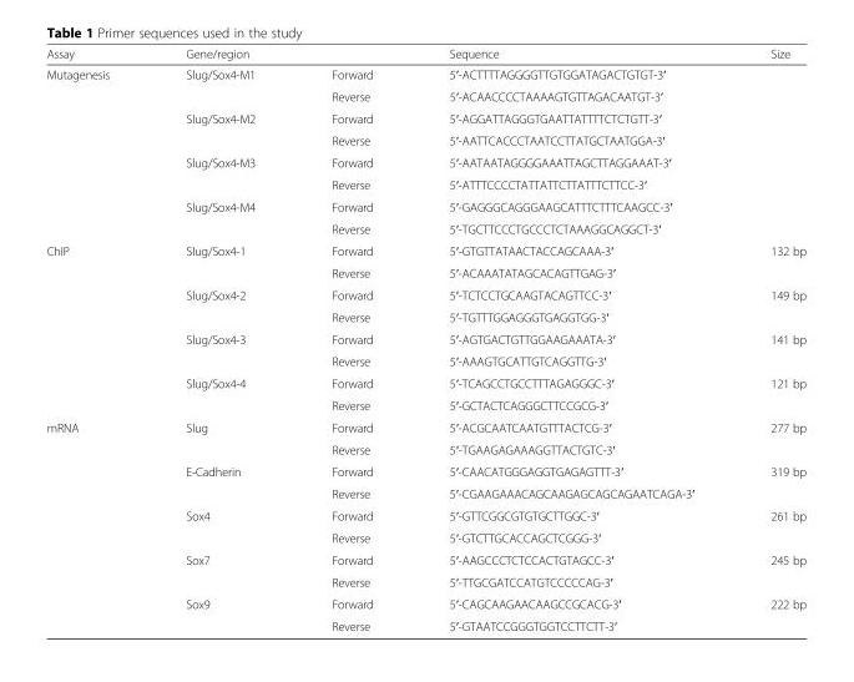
<table><thead><tr><td>Assay</td><td>Gene/region</td><td></td><td>Sequence</td><td>Size</td></tr></thead><tbody><tr><td rowspan="8">Mutagenesis</td><td>Slug/Sox4-M1</td><td>Forward</td><td>5′-ACTTTTAGGGGTTGTGGATAGACTGTGT-3′</td><td></td></tr><tr><td></td><td>Reverse</td><td>5′-ACAACCCCTAAAAGTGTTAGACAATGT-3′</td><td></td></tr><tr><td>Slug/Sox4-M2</td><td>Forward</td><td>5′-AGGATTAGGGTGAATTATTTTCTCTGTT-3′</td><td></td></tr><tr><td></td><td>Reverse</td><td>5′-AATTCACCCTAATCCTTATGCTAATGGA-3′</td><td></td></tr><tr><td>Slug/Sox4-M3</td><td>Forward</td><td>5′-AATAATAGGGGAAATTAGCTTAGGAAAT-3′</td><td></td></tr><tr><td></td><td>Reverse</td><td>5′-ATTTCCCCTATTATTCTTATTTCTTCC-3′</td><td></td></tr><tr><td>Slug/Sox4-M4</td><td>Forward</td><td>5′-GAGGGCAGGGAAGCATTTCTTTCAAGCC-3′</td><td></td></tr><tr><td></td><td>Reverse</td><td>5′-TGCTTCCCTGCCCTCTAAAGGCAGGCT-3′</td><td></td></tr><tr><td rowspan="8">ChIP</td><td>Slug/Sox4-1</td><td>Forward</td><td>5′-GTGTTATAACTACCAGCAAA-3′</td><td>132 bp</td></tr><tr><td></td><td>Reverse</td><td>5′-ACAAATATAGCACAGTTGAG-3′</td><td></td></tr><tr><td>Slug/Sox4-2</td><td>Forward</td><td>5′-TCTCCTGCAAGTACAGTTCC-3′</td><td>149 bp</td></tr><tr><td></td><td>Reverse</td><td>5′-TGTTTGGAGGGTGAGGTGG-3′</td><td></td></tr><tr><td>Slug/Sox4-3</td><td>Forward</td><td>5′-AGTGACTGTTGGAAGAAATA-3′</td><td>141 bp</td></tr><tr><td></td><td>Reverse</td><td>5′-AAAGTGCATTGTCAGGTTG-3′</td><td></td></tr><tr><td>Slug/Sox4-4</td><td>Forward</td><td>5′-TCAGCCTGCCTTTAGAGGGC-3′</td><td>121 bp</td></tr><tr><td></td><td>Reverse</td><td>5′-GCTACTCAGGGCTTCCGCG-3′</td><td></td></tr><tr><td rowspan="10">mRNA</td><td>Slug</td><td>Forward</td><td>5′-ACGCAATCAATGTTTACTCG-3′</td><td>277 bp</td></tr><tr><td></td><td>Reverse</td><td>5′-TGAAGAGAAAGGTTACTGTC-3′</td><td></td></tr><tr><td>E-Cadherin</td><td>Forward</td><td>5′-CAACATGGGAGGTGAGAGTTT-3′</td><td>319 bp</td></tr><tr><td></td><td>Reverse</td><td>5′-CGAAGAAACAGCAAGAGCAGCAGAATCAGA-3′</td><td></td></tr><tr><td>Sox4</td><td>Forward</td><td>5′-GTTCGGCGTGTGCTTGGC-3′</td><td>261 bp</td></tr><tr><td></td><td>Reverse</td><td>5′-GTCTTGCACCAGCTCGGG-3′</td><td></td></tr><tr><td>Sox7</td><td>Forward</td><td>5′-AAGCCCTCTCCACTGTAGCC-3′</td><td>245 bp</td></tr><tr><td></td><td>Reverse</td><td>5′-TTGCGATCCATGTCCCCCAG-3′</td><td></td></tr><tr><td>Sox9</td><td>Forward</td><td>5′-CAGCAAGAACAAGCCGCACG-3′</td><td>222 bp</td></tr><tr><td></td><td>Reverse</td><td>5′-GTAATCCGGGTGGTCCTTCTT-3′</td><td></td></tr></tbody></table>